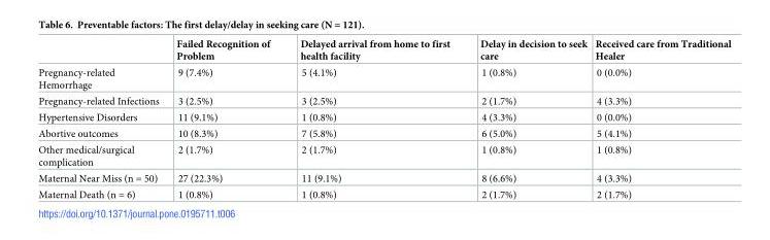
<table><thead><tr><td></td><td>Failed Recognition of Problem</td><td>Delayed arrival from home to first health facility</td><td>Delay in decision to seek care</td><td>Received care from Traditional Healer</td></tr></thead><tbody><tr><td>Pregnancy-related Hemorrhage</td><td>9 (7.4%)</td><td>5 (4.1%)</td><td>1 (0.8%)</td><td>0 (0.0%)</td></tr><tr><td>Pregnancy-related Infections</td><td>3 (2.5%)</td><td>3 (2.5%)</td><td>2 (1.7%)</td><td>4 (3.3%)</td></tr><tr><td>Hypertensive Disorders</td><td>11 (9.1%)</td><td>1 (0.8%)</td><td>4 (3.3%)</td><td>0 (0.0%)</td></tr><tr><td>Abortive outcomes</td><td>10 (8.3%)</td><td>7 (5.8%)</td><td>6 (5.0%)</td><td>5 (4.1%)</td></tr><tr><td>Other medical/surgical complication</td><td>2 (1.7%)</td><td>2 (1.7%)</td><td>1 (0.8%)</td><td>1 (0.8%)</td></tr><tr><td>Maternal Near Miss (n = 50)</td><td>27 (22.3%)</td><td>11 (9.1%)</td><td>8 (6.6%)</td><td>4 (3.3%)</td></tr><tr><td>Maternal Death (n = 6)</td><td>1 (0.8%)</td><td>1 (0.8%)</td><td>2 (1.7%)</td><td>2 (1.7%)</td></tr></tbody></table>